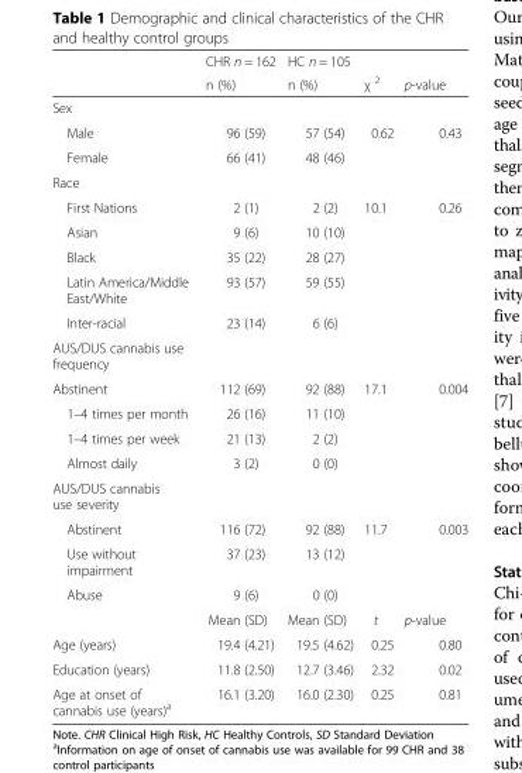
<table><thead><tr><td rowspan="2"></td><td rowspan="2">CHR n = 162 n (%)</td><td rowspan="2">HC n = 105 n (%)</td><td rowspan="2">χ <sup>2</sup></td><td rowspan="2">p-value</td></tr><tr></tr></thead><tbody><tr><td colspan="5">Sex</td></tr><tr><td>Male</td><td>96 (59)</td><td>57 (54)</td><td rowspan="2">0.62</td><td rowspan="2">0.43</td></tr><tr><td>Female</td><td>66 (41)</td><td>48 (46)</td></tr><tr><td colspan="5">Race</td></tr><tr><td>First Nations</td><td>2 (1)</td><td>2 (2)</td><td rowspan="5">10.1</td><td rowspan="5">0.26</td></tr><tr><td>Asian</td><td>9 (6)</td><td>10 (10)</td></tr><tr><td>Black</td><td>35 (22)</td><td>28 (27)</td></tr><tr><td>Latin America/Middle East/White</td><td>93 (57)</td><td>59 (55)</td></tr><tr><td>Inter-racial</td><td>23 (14)</td><td>6 (6)</td></tr><tr><td colspan="5">AUS/DUS cannabis use frequency</td></tr><tr><td>Abstinent</td><td>112 (69)</td><td>92 (88)</td><td rowspan="4">17.1</td><td rowspan="4">0.004</td></tr><tr><td>1–4 times per month</td><td>26 (16)</td><td>11 (10)</td></tr><tr><td>1–4 times per week</td><td>21 (13)</td><td>2 (2)</td></tr><tr><td>Almost daily</td><td>3 (2)</td><td>0 (0)</td></tr><tr><td colspan="5">AUS/DUS cannabis use severity</td></tr><tr><td>Abstinent</td><td>116 (72)</td><td>92 (88)</td><td rowspan="3">11.7</td><td rowspan="3">0.003</td></tr><tr><td>Use without impairment</td><td>37 (23)</td><td>13 (12)</td></tr><tr><td rowspan="2">Abuse</td><td>9 (6)</td><td>0 (0)</td></tr><tr><td>Mean (SD)</td><td>Mean (SD)</td><td>t</td><td>p-value</td></tr><tr><td>Age (years)</td><td>19.4 (4.21)</td><td>19.5 (4.62)</td><td>0.25</td><td>0.80</td></tr><tr><td>Education (years)</td><td>11.8 (2.50)</td><td>12.7 (3.46)</td><td>2.32</td><td>0.02</td></tr><tr><td>Age at onset of cannabis use (years)<sup>a</sup></td><td>16.1 (3.20)</td><td>16.0 (2.30)</td><td>0.25</td><td>0.81</td></tr></tbody></table>